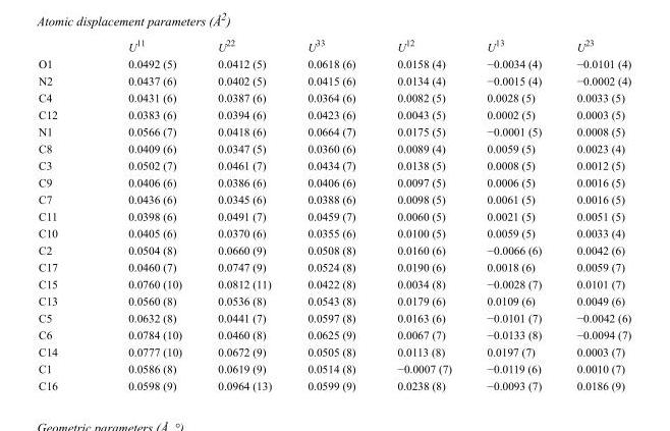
<table><thead><tr><td></td><td>U<sup>11</sup></td><td>U<sup>22</sup></td><td>U<sup>33</sup></td><td>U<sup>12</sup></td><td>U<sup>13</sup></td><td>U<sup>23</sup></td></tr></thead><tbody><tr><td>O1</td><td>0.0492 (5)</td><td>0.0412 (5)</td><td>0.0618 (6)</td><td>0.0158 (4)</td><td>−0.0034 (4)</td><td>−0.0101 (4)</td></tr><tr><td>N2</td><td>0.0437 (6)</td><td>0.0402 (5)</td><td>0.0415 (6)</td><td>0.0134 (4)</td><td>−0.0015 (4)</td><td>−0.0002 (4)</td></tr><tr><td>C4</td><td>0.0431 (6)</td><td>0.0387 (6)</td><td>0.0364 (6)</td><td>0.0082 (5)</td><td>0.0028 (5)</td><td>0.0033 (5)</td></tr><tr><td>C12</td><td>0.0383 (6)</td><td>0.0394 (6)</td><td>0.0423 (6)</td><td>0.0043 (5)</td><td>0.0002 (5)</td><td>0.0003 (5)</td></tr><tr><td>N1</td><td>0.0566 (7)</td><td>0.0418 (6)</td><td>0.0664 (7)</td><td>0.0175 (5)</td><td>−0.0001 (5)</td><td>0.0008 (5)</td></tr><tr><td>C8</td><td>0.0409 (6)</td><td>0.0347 (5)</td><td>0.0360 (6)</td><td>0.0089 (4)</td><td>0.0059 (5)</td><td>0.0023 (4)</td></tr><tr><td>C3</td><td>0.0502 (7)</td><td>0.0461 (7)</td><td>0.0434 (7)</td><td>0.0138 (5)</td><td>0.0008 (5)</td><td>0.0012 (5)</td></tr><tr><td>C9</td><td>0.0406 (6)</td><td>0.0386 (6)</td><td>0.0406 (6)</td><td>0.0097 (5)</td><td>0.0006 (5)</td><td>0.0016 (5)</td></tr><tr><td>C7</td><td>0.0436 (6)</td><td>0.0345 (6)</td><td>0.0388 (6)</td><td>0.0098 (5)</td><td>0.0061 (5)</td><td>0.0016 (5)</td></tr><tr><td>C11</td><td>0.0398 (6)</td><td>0.0491 (7)</td><td>0.0459 (7)</td><td>0.0060 (5)</td><td>0.0021 (5)</td><td>0.0051 (5)</td></tr><tr><td>C10</td><td>0.0405 (6)</td><td>0.0370 (6)</td><td>0.0355 (6)</td><td>0.0100 (5)</td><td>0.0059 (5)</td><td>0.0033 (4)</td></tr><tr><td>C2</td><td>0.0504 (8)</td><td>0.0660 (9)</td><td>0.0508 (8)</td><td>0.0160 (6)</td><td>−0.0066 (6)</td><td>0.0042 (6)</td></tr><tr><td>C17</td><td>0.0460 (7)</td><td>0.0747 (9)</td><td>0.0524 (8)</td><td>0.0190 (6)</td><td>0.0018 (6)</td><td>0.0059 (7)</td></tr><tr><td>C15</td><td>0.0760 (10)</td><td>0.0812 (11)</td><td>0.0422 (8)</td><td>0.0034 (8)</td><td>−0.0028 (7)</td><td>0.0101 (7)</td></tr><tr><td>C13</td><td>0.0560 (8)</td><td>0.0536 (8)</td><td>0.0543 (8)</td><td>0.0179 (6)</td><td>0.0109 (6)</td><td>0.0049 (6)</td></tr><tr><td>C5</td><td>0.0632 (8)</td><td>0.0441 (7)</td><td>0.0597 (8)</td><td>0.0163 (6)</td><td>−0.0101 (7)</td><td>−0.0042 (6)</td></tr><tr><td>C6</td><td>0.0784 (10)</td><td>0.0460 (8)</td><td>0.0625 (9)</td><td>0.0067 (7)</td><td>−0.0133 (8)</td><td>−0.0094 (7)</td></tr><tr><td>C14</td><td>0.0777 (10)</td><td>0.0672 (9)</td><td>0.0505 (8)</td><td>0.0113 (8)</td><td>0.0197 (7)</td><td>0.0003 (7)</td></tr><tr><td>C1</td><td>0.0586 (8)</td><td>0.0619 (9)</td><td>0.0514 (8)</td><td>−0.0007 (7)</td><td>−0.0119 (6)</td><td>0.0010 (7)</td></tr><tr><td>C16</td><td>0.0598 (9)</td><td>0.0964 (13)</td><td>0.0599 (9)</td><td>0.0238 (8)</td><td>−0.0093 (7)</td><td>0.0186 (9)</td></tr></tbody></table>